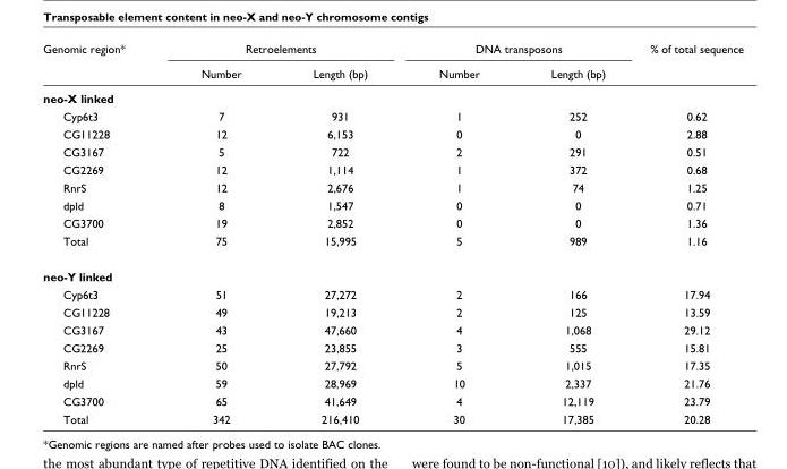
<table><thead><tr><td rowspan="2">Genomic region*</td><td colspan="2">Retroelements</td><td colspan="2">DNA transposons</td><td rowspan="2">% of total sequence</td></tr><tr><td>Number</td><td>Length (bp)</td><td>Number</td><td>Length (bp)</td></tr></thead><tbody><tr><td colspan="6">neo-X linked</td></tr><tr><td>Cyp6t3</td><td>7</td><td>931</td><td>1</td><td>252</td><td>0.62</td></tr><tr><td>CG11228</td><td>12</td><td>6,153</td><td>0</td><td>0</td><td>2.88</td></tr><tr><td>CG3167</td><td>5</td><td>722</td><td>2</td><td>291</td><td>0.51</td></tr><tr><td>CG2269</td><td>12</td><td>1,114</td><td>1</td><td>372</td><td>0.68</td></tr><tr><td>RnrS</td><td>12</td><td>2,676</td><td>1</td><td>74</td><td>1.25</td></tr><tr><td>dpld</td><td>8</td><td>1,547</td><td>0</td><td>0</td><td>0.71</td></tr><tr><td>CG3700</td><td>19</td><td>2,852</td><td>0</td><td>0</td><td>1.36</td></tr><tr><td>Total</td><td>75</td><td>15,995</td><td>5</td><td>989</td><td>1.16</td></tr><tr><td colspan="6">neo-Y linked</td></tr><tr><td>Cyp6t3</td><td>51</td><td>27,272</td><td>2</td><td>166</td><td>17.94</td></tr><tr><td>CG11228</td><td>49</td><td>19,213</td><td>2</td><td>125</td><td>13.59</td></tr><tr><td>CG3167</td><td>43</td><td>47,660</td><td>4</td><td>1,068</td><td>29.12</td></tr><tr><td>CG2269</td><td>25</td><td>23,855</td><td>3</td><td>555</td><td>15.81</td></tr><tr><td>RnrS</td><td>50</td><td>27,792</td><td>5</td><td>1,015</td><td>17.35</td></tr><tr><td>dpld</td><td>59</td><td>28,969</td><td>10</td><td>2,337</td><td>21.76</td></tr><tr><td>CG3700</td><td>65</td><td>41,649</td><td>4</td><td>12,119</td><td>23.79</td></tr><tr><td>Total</td><td>342</td><td>216,410</td><td>30</td><td>17,385</td><td>20.28</td></tr></tbody></table>